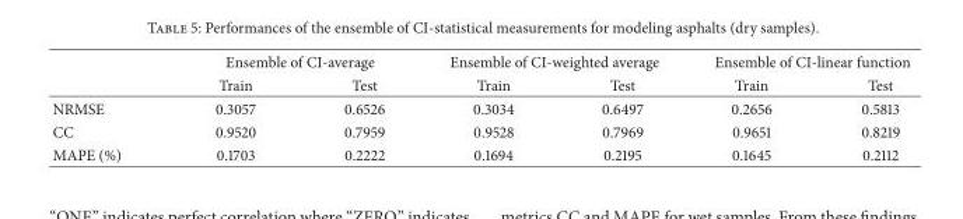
<table><thead><tr><td rowspan="2"></td><td colspan="2">Ensemble of CI-average</td><td colspan="2">Ensemble of CI-weighted average</td><td colspan="2">Ensemble of CI-linear function</td></tr><tr><td>Train</td><td>Test</td><td>Train</td><td>Test</td><td>Train</td><td>Test</td></tr></thead><tbody><tr><td>NRMSE</td><td>0.3057</td><td>0.6526</td><td>0.3034</td><td>0.6497</td><td>0.2656</td><td>0.5813</td></tr><tr><td>CC</td><td>0.9520</td><td>0.7959</td><td>0.9528</td><td>0.7969</td><td>0.9651</td><td>0.8219</td></tr><tr><td>MAPE (%)</td><td>0.1703</td><td>0.2222</td><td>0.1694</td><td>0.2195</td><td>0.1645</td><td>0.2112</td></tr></tbody></table>